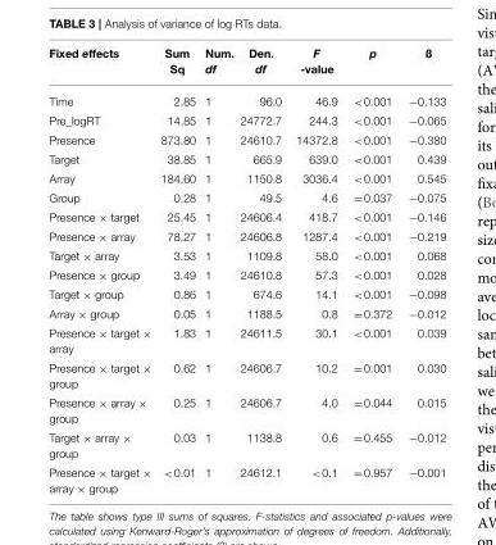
<table><thead><tr><td>Fixed effects</td><td>Sum Sq</td><td>Num. df</td><td>Den. df</td><td>F -value</td><td>p</td><td>ß</td></tr></thead><tbody><tr><td>Time</td><td>2.85</td><td>1</td><td>96.0</td><td>46.9</td><td>&lt;0.001</td><td>−0.133</td></tr><tr><td>Pre_logRT</td><td>14.85</td><td>1</td><td>24772.7</td><td>244.3</td><td>&lt;0.001</td><td>−0.065</td></tr><tr><td>Presence</td><td>873.80</td><td>1</td><td>24610.7</td><td>14372.8</td><td>&lt;0.001</td><td>−0.380</td></tr><tr><td>Target</td><td>38.85</td><td>1</td><td>665.9</td><td>639.0</td><td>&lt;0.001</td><td>0.439</td></tr><tr><td>Array</td><td>184.60</td><td>1</td><td>1150.8</td><td>3036.4</td><td>&lt;0.001</td><td>0.545</td></tr><tr><td>Group</td><td>0.28</td><td>1</td><td>49.5</td><td>4.6</td><td>=0.037</td><td>−0.075</td></tr><tr><td>Presence × target</td><td>25.45</td><td>1</td><td>24606.4</td><td>418.7</td><td>&lt;0.001</td><td>−0.146</td></tr><tr><td>Presence × array</td><td>78.27</td><td>1</td><td>24606.8</td><td>1287.4</td><td>&lt;0.001</td><td>−0.219</td></tr><tr><td>Target × array</td><td>3.53</td><td>1</td><td>1109.8</td><td>58.0</td><td>&lt;0.001</td><td>0.068</td></tr><tr><td>Presence × group</td><td>3.49</td><td>1</td><td>24610.8</td><td>57.3</td><td>&lt;0.001</td><td>0.028</td></tr><tr><td>Target × group</td><td>0.86</td><td>1</td><td>674.6</td><td>14.1</td><td>&lt;0.001</td><td>−0.098</td></tr><tr><td>Array × group</td><td>0.05</td><td>1</td><td>1188.5</td><td>0.8</td><td>=0.372</td><td>−0.012</td></tr><tr><td>Presence × target × array</td><td>1.83</td><td>1</td><td>24611.5</td><td>30.1</td><td>&lt;0.001</td><td>0.039</td></tr><tr><td>Presence × target × group</td><td>0.62</td><td>1</td><td>24606.7</td><td>10.2</td><td>=0.001</td><td>0.030</td></tr><tr><td>Presence × array × group</td><td>0.25</td><td>1</td><td>24606.7</td><td>4.0</td><td>=0.044</td><td>0.015</td></tr><tr><td>Target × array × group</td><td>0.03</td><td>1</td><td>1138.8</td><td>0.6</td><td>=0.455</td><td>−0.012</td></tr><tr><td>Presence × target × array × group</td><td>&lt;0.01</td><td>1</td><td>24612.1</td><td>&lt;0.1</td><td>=0.957</td><td>−0.001</td></tr></tbody></table>